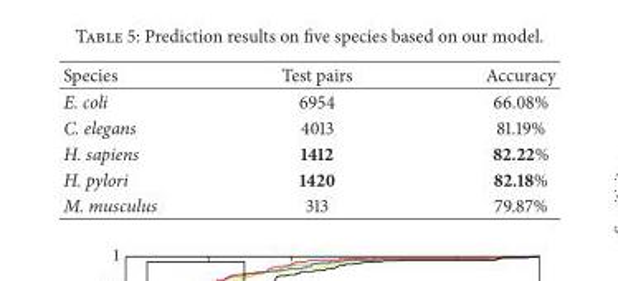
<table><thead><tr><td>Species</td><td>Test pairs</td><td>Accuracy</td></tr></thead><tbody><tr><td>E. coli</td><td>6954</td><td>66.08%</td></tr><tr><td>C. elegans</td><td>4013</td><td>81.19%</td></tr><tr><td>H. sapiens</td><td>1412</td><td>82.22%</td></tr><tr><td>H. pylori</td><td>1420</td><td>82.18%</td></tr><tr><td>M. musculus</td><td>313</td><td>79.87%</td></tr></tbody></table>